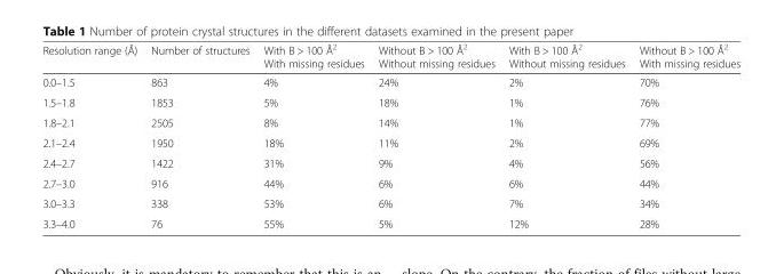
<table><thead><tr><td>Resolution range (Å)</td><td>Number of structures</td><td>With B &gt; 100 Å<sup>2</sup> With missing residues</td><td>Without B &gt; 100 Å<sup>2</sup> Without missing residues</td><td>With B &gt; 100 Å<sup>2</sup> Without missing residues</td><td>Without B &gt; 100 Å<sup>2</sup> With missing residues</td></tr></thead><tbody><tr><td>0.0–1.5</td><td>863</td><td>4%</td><td>24%</td><td>2%</td><td>70%</td></tr><tr><td>1.5–1.8</td><td>1853</td><td>5%</td><td>18%</td><td>1%</td><td>76%</td></tr><tr><td>1.8–2.1</td><td>2505</td><td>8%</td><td>14%</td><td>1%</td><td>77%</td></tr><tr><td>2.1–2.4</td><td>1950</td><td>18%</td><td>11%</td><td>2%</td><td>69%</td></tr><tr><td>2.4–2.7</td><td>1422</td><td>31%</td><td>9%</td><td>4%</td><td>56%</td></tr><tr><td>2.7–3.0</td><td>916</td><td>44%</td><td>6%</td><td>6%</td><td>44%</td></tr><tr><td>3.0–3.3</td><td>338</td><td>53%</td><td>6%</td><td>7%</td><td>34%</td></tr><tr><td>3.3–4.0</td><td>76</td><td>55%</td><td>5%</td><td>12%</td><td>28%</td></tr></tbody></table>